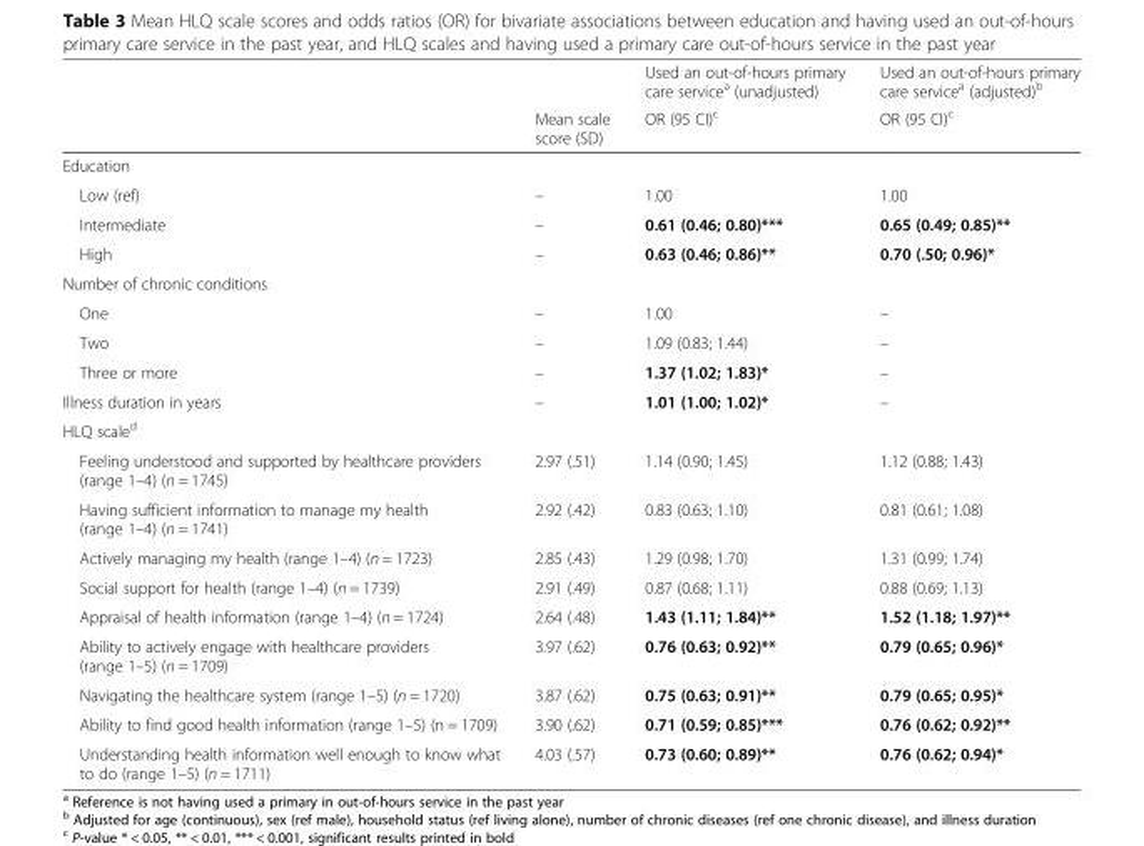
<table><thead><tr><td rowspan="2"></td><td rowspan="2">Mean scale score (SD)</td><td rowspan="2">Used an out-of-hours primary care service<sup>a</sup> (unadjusted) OR (95 CI)<sup>c</sup></td><td rowspan="2">Used an out-of-hours primary care service<sup>a</sup> (adjusted)<sup>b</sup> OR (95 CI)<sup>c</sup></td></tr><tr></tr></thead><tbody><tr><td colspan="4">Education</td></tr><tr><td>Low (ref)</td><td>–</td><td>1.00</td><td>1.00</td></tr><tr><td>Intermediate</td><td>–</td><td>0.61 (0.46; 0.80)***</td><td>0.65 (0.49; 0.85)**</td></tr><tr><td>High</td><td>–</td><td>0.63 (0.46; 0.86)**</td><td>0.70 (.50; 0.96)*</td></tr><tr><td colspan="4">Number of chronic conditions</td></tr><tr><td>One</td><td>–</td><td>1.00</td><td>–</td></tr><tr><td>Two</td><td>–</td><td>1.09 (0.83; 1.44)</td><td>–</td></tr><tr><td>Three or more</td><td>–</td><td>1.37 (1.02; 1.83)*</td><td>–</td></tr><tr><td>Illness duration in years</td><td>–</td><td>1.01 (1.00; 1.02)*</td><td>–</td></tr><tr><td colspan="4">HLQ scale<sup>d</sup></td></tr><tr><td>Feeling understood and supported by healthcare providers (range 1–4) (n = 1745)</td><td>2.97 (.51)</td><td>1.14 (0.90; 1.45)</td><td>1.12 (0.88; 1.43)</td></tr><tr><td>Having sufficient information to manage my health (range 1–4) (n = 1741)</td><td>2.92 (.42)</td><td>0.83 (0.63; 1.10)</td><td>0.81 (0.61; 1.08)</td></tr><tr><td>Actively managing my health (range 1–4) (n = 1723)</td><td>2.85 (.43)</td><td>1.29 (0.98; 1.70)</td><td>1.31 (0.99; 1.74)</td></tr><tr><td>Social support for health (range 1–4) (n = 1739)</td><td>2.91 (.49)</td><td>0.87 (0.68; 1.11)</td><td>0.88 (0.69; 1.13)</td></tr><tr><td>Appraisal of health information (range 1–4) (n = 1724)</td><td>2.64 (.48)</td><td>1.43 (1.11; 1.84)**</td><td>1.52 (1.18; 1.97)**</td></tr><tr><td>Ability to actively engage with healthcare providers (range 1–5) (n = 1709)</td><td>3.97 (.62)</td><td>0.76 (0.63; 0.92)**</td><td>0.79 (0.65; 0.96)*</td></tr><tr><td>Navigating the healthcare system (range 1–5) (n = 1720)</td><td>3.87 (.62)</td><td>0.75 (0.63; 0.91)**</td><td>0.79 (0.65; 0.95)*</td></tr><tr><td>Ability to find good health information (range 1–5) (n = 1709)</td><td>3.90 (.62)</td><td>0.71 (0.59; 0.85)***</td><td>0.76 (0.62; 0.92)**</td></tr><tr><td>Understanding health information well enough to know what to do (range 1–5) (n = 1711)</td><td>4.03 (.57)</td><td>0.73 (0.60; 0.89)**</td><td>0.76 (0.62; 0.94)*</td></tr></tbody></table>